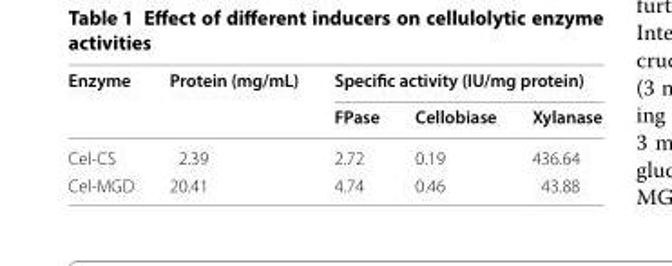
<table><thead><tr><td rowspan="2">Enzyme</td><td rowspan="2">Protein (mg/mL)</td><td colspan="3">Specific activity (IU/mg protein)</td></tr><tr><td>FPase</td><td>Cellobiase</td><td>Xylanase</td></tr></thead><tbody><tr><td>Cel‑CS</td><td>2.39</td><td>2.72</td><td>0.19</td><td>436.64</td></tr><tr><td>Cel‑MGD</td><td>20.41</td><td>4.74</td><td>0.46</td><td>43.88</td></tr></tbody></table>